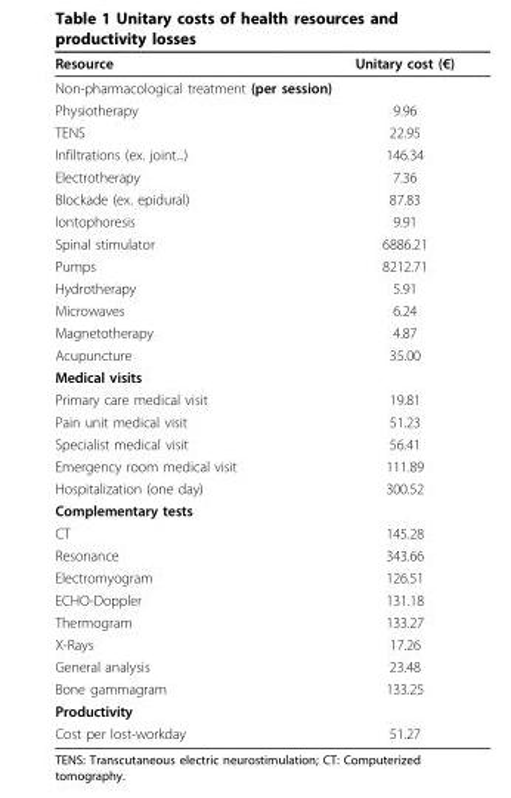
<table><thead><tr><td>Resource</td><td>Unitary cost (€)</td></tr></thead><tbody><tr><td colspan="2">Non-pharmacological treatment (per session)</td></tr><tr><td>Physiotherapy</td><td>9.96</td></tr><tr><td>TENS</td><td>22.95</td></tr><tr><td>Infiltrations (ex. joint...)</td><td>146.34</td></tr><tr><td>Electrotherapy</td><td>7.36</td></tr><tr><td>Blockade (ex. epidural)</td><td>87.83</td></tr><tr><td>Iontophoresis</td><td>9.91</td></tr><tr><td>Spinal stimulator</td><td>6886.21</td></tr><tr><td>Pumps</td><td>8212.71</td></tr><tr><td>Hydrotherapy</td><td>5.91</td></tr><tr><td>Microwaves</td><td>6.24</td></tr><tr><td>Magnetotherapy</td><td>4.87</td></tr><tr><td>Acupuncture</td><td>35.00</td></tr><tr><td colspan="2">Medical visits</td></tr><tr><td>Primary care medical visit</td><td>19.81</td></tr><tr><td>Pain unit medical visit</td><td>51.23</td></tr><tr><td>Specialist medical visit</td><td>56.41</td></tr><tr><td>Emergency room medical visit</td><td>111.89</td></tr><tr><td>Hospitalization (one day)</td><td>300.52</td></tr><tr><td colspan="2">Complementary tests</td></tr><tr><td>CT</td><td>145.28</td></tr><tr><td>Resonance</td><td>343.66</td></tr><tr><td>Electromyogram</td><td>126.51</td></tr><tr><td>ECHO-Doppler</td><td>131.18</td></tr><tr><td>Thermogram</td><td>133.27</td></tr><tr><td>X-Rays</td><td>17.26</td></tr><tr><td>General analysis</td><td>23.48</td></tr><tr><td>Bone gammagram</td><td>133.25</td></tr><tr><td colspan="2">Productivity</td></tr><tr><td>Cost per lost-workday</td><td>51.27</td></tr></tbody></table>